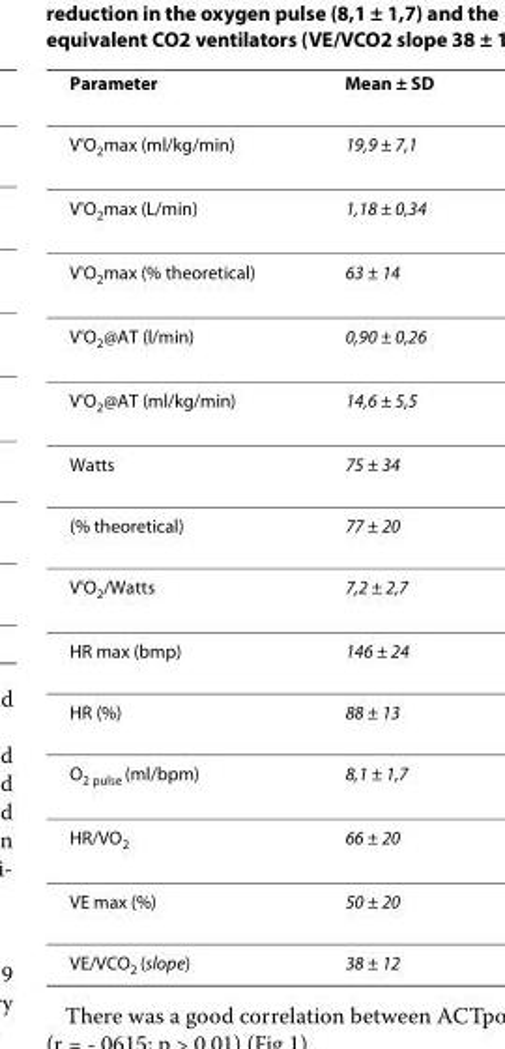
<table><thead><tr><td>Parameter</td><td>Mean ± SD</td></tr></thead><tbody><tr><td>V&#x27;O<sub>2</sub>max (ml/kg/min)</td><td>19,9 ± 7,1</td></tr><tr><td>V&#x27;O<sub>2</sub>max (L/min)</td><td>1,18 ± 0,34</td></tr><tr><td>V&#x27;O<sub>2</sub>max (% theoretical)</td><td>63 ± 14</td></tr><tr><td>V&#x27;O<sub>2</sub>@AT (l/min)</td><td>0,90 ± 0,26</td></tr><tr><td>V&#x27;O<sub>2</sub>@AT (ml/kg/min)</td><td>14,6 ± 5,5</td></tr><tr><td>Watts</td><td>75 ± 34</td></tr><tr><td>(% theoretical)</td><td>77 ± 20</td></tr><tr><td>V&#x27;O<sub>2</sub>/Watts</td><td>7,2 ± 2,7</td></tr><tr><td>HR max (bmp)</td><td>146 ± 24</td></tr><tr><td>HR (%)</td><td>88 ± 13</td></tr><tr><td>O<sub>2 pulse</sub> (ml/bpm)</td><td>8,1 ± 1,7</td></tr><tr><td>HR/VO<sub>2</sub></td><td>66 ± 20</td></tr><tr><td>VE max (%)</td><td>50 ± 20</td></tr><tr><td>VE/VCO<sub>2</sub> (slope)</td><td>38 ± 12</td></tr></tbody></table>